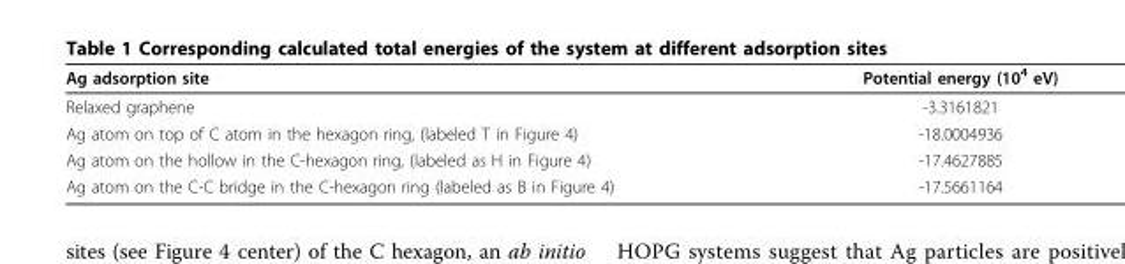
<table><thead><tr><td>Ag adsorption site</td><td>Potential energy (10<sup>4</sup> eV)</td></tr></thead><tbody><tr><td>Relaxed graphene</td><td>-3.3161821</td></tr><tr><td>Ag atom on top of C atom in the hexagon ring, (labeled T in Figure 4)</td><td>-18.0004936</td></tr><tr><td>Ag atom on the hollow in the C-hexagon ring, (labeled as H in Figure 4)</td><td>-17.4627885</td></tr><tr><td>Ag atom on the C-C bridge in the C-hexagon ring (labeled as B in Figure 4)</td><td>-17.5661164</td></tr></tbody></table>